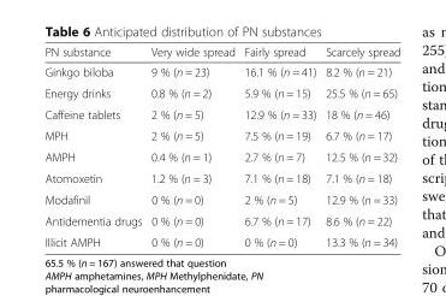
<table><thead><tr><td>PN substance</td><td>Very wide spread</td><td>Fairly spread</td><td>Scarcely spread</td></tr></thead><tbody><tr><td>Ginkgo biloba</td><td>9 % (n = 23)</td><td>16.1 % (n = 41)</td><td>8.2 % (n = 21)</td></tr><tr><td>Energy drinks</td><td>0.8 % (n = 2)</td><td>5.9 % (n = 15)</td><td>25.5 % (n = 65)</td></tr><tr><td>Caffeine tablets</td><td>2 % (n = 5)</td><td>12.9 % (n = 33)</td><td>18 % (n = 46)</td></tr><tr><td>MPH</td><td>2 % (n = 5)</td><td>7.5 % (n = 19)</td><td>6.7 % (n = 17)</td></tr><tr><td>AMPH</td><td>0.4 % (n = 1)</td><td>2.7 % (n = 7)</td><td>12.5 % (n = 32)</td></tr><tr><td>Atomoxetin</td><td>1.2 % (n = 3)</td><td>7.1 % (n = 18)</td><td>7.1 % (n = 18)</td></tr><tr><td>Modafinil</td><td>0 % (n = 0)</td><td>2 % (n = 5)</td><td>12.9 % (n = 33)</td></tr><tr><td>Antidementia drugs</td><td>0 % (n = 0)</td><td>6.7 % (n = 17)</td><td>8.6 % (n = 22)</td></tr><tr><td>Illicit AMPH</td><td>0 % (n = 0)</td><td>0 % (n = 0)</td><td>13.3 % (n = 34)</td></tr></tbody></table>